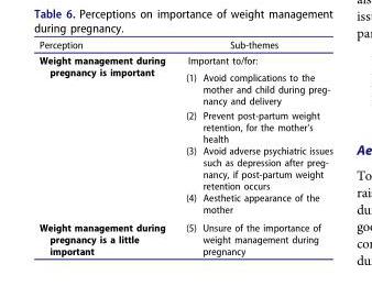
<table><thead><tr><td>Perception</td><td>Sub-themes</td></tr></thead><tbody><tr><td>Weight management during pregnancy is important</td><td>Important to/for: (1) Avoid complications to the mother and child during preg- nancy and delivery (2) Prevent post-partum weight retention, for the mother’s health (3) Avoid adverse psychiatric issues such as depression after preg- nancy, if post-partum weight retention occurs (4) Aesthetic appearance of the mother</td></tr><tr><td>Weight management during pregnancy is a little important</td><td>(5) Unsure of the importance of weight management during pregnancy</td></tr></tbody></table>